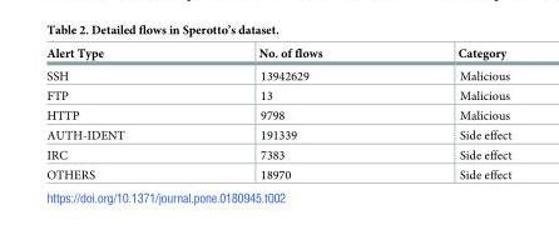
<table><thead><tr><td>Alert Type</td><td>No. of flows</td><td>Category</td></tr></thead><tbody><tr><td>SSH</td><td>13942629</td><td>Malicious</td></tr><tr><td>FTP</td><td>13</td><td>Malicious</td></tr><tr><td>HTTP</td><td>9798</td><td>Malicious</td></tr><tr><td>AUTH-IDENT</td><td>191339</td><td>Side effect</td></tr><tr><td>IRC</td><td>7383</td><td>Side effect</td></tr><tr><td>OTHERS</td><td>18970</td><td>Side effect</td></tr></tbody></table>